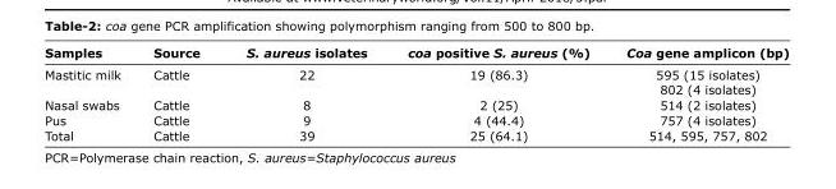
<table><thead><tr><td>Samples</td><td>Source</td><td>S. aureus isolates</td><td>coa positive S. aureus (%)</td><td>Coa gene amplicon (bp)</td></tr></thead><tbody><tr><td>Mastitic milk</td><td>Cattle</td><td>22</td><td>19 (86.3)</td><td>595 (15 isolates) 802 (4 isolates)</td></tr><tr><td>Nasal swabs</td><td>Cattle</td><td>8</td><td>2 (25)</td><td>514 (2 isolates)</td></tr><tr><td>Pus</td><td>Cattle</td><td>9</td><td>4 (44.4)</td><td>757 (4 isolates)</td></tr><tr><td>Total</td><td>Cattle</td><td>39</td><td>25 (64.1)</td><td>514, 595, 757, 802</td></tr></tbody></table>